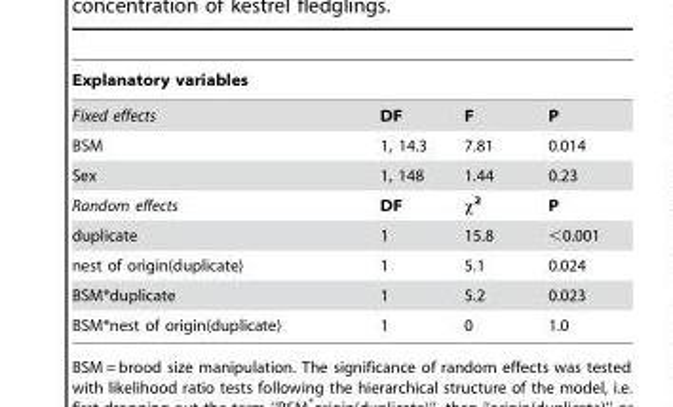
<table><thead><tr><td colspan="4">Explanatory variables</td></tr><tr><td>Fixed effects</td><td>DF</td><td>F</td><td>P</td></tr></thead><tbody><tr><td>BSM</td><td>1, 14.3</td><td>7.81</td><td>0.014</td></tr><tr><td>Sex</td><td>1, 148</td><td>1.44</td><td>0.23</td></tr><tr><td>Random effects</td><td>DF</td><td>χ<sup>2</sup></td><td>P</td></tr><tr><td>duplicate</td><td>1</td><td>15.8</td><td>&lt;0.001</td></tr><tr><td>nest of origin(duplicate)</td><td>1</td><td>5.1</td><td>0.024</td></tr><tr><td>BSM*duplicate</td><td>1</td><td>5.2</td><td>0.023</td></tr><tr><td>BSM*nest of origin(duplicate)</td><td>1</td><td>0</td><td>1.0</td></tr></tbody></table>